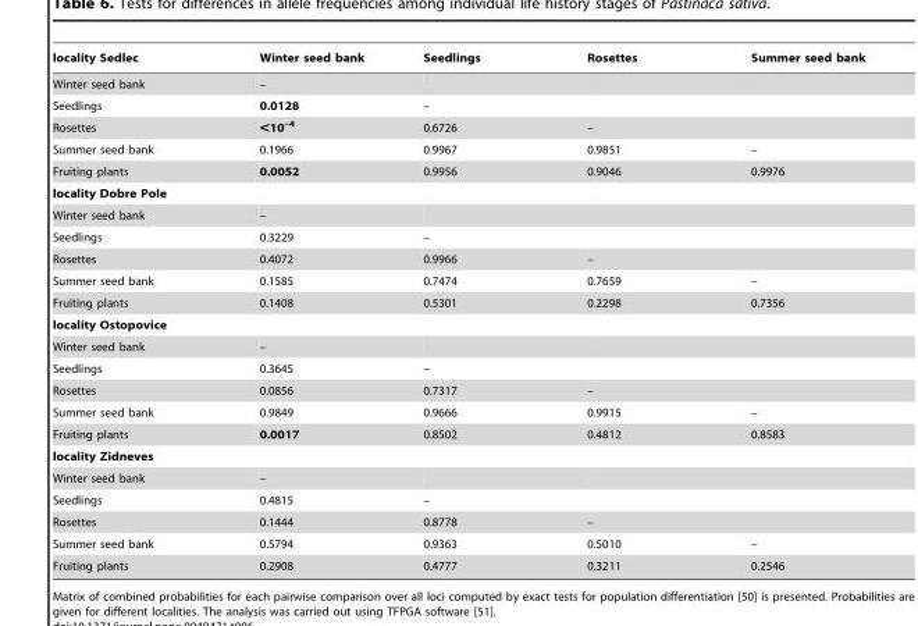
<table><thead><tr><td>locality Sedlec</td><td>Winter seed bank</td><td>Seedlings</td><td>Rosettes</td><td>Summer seed bank</td></tr></thead><tbody><tr><td>Winter seed bank</td><td>–</td><td></td><td></td><td></td></tr><tr><td>Seedlings</td><td>0.0128</td><td>–</td><td></td><td></td></tr><tr><td>Rosettes</td><td>&lt;10<sup>–4</sup></td><td>0.6726</td><td>–</td><td></td></tr><tr><td>Summer seed bank</td><td>0.1966</td><td>0.9967</td><td>0.9851</td><td>–</td></tr><tr><td>Fruiting plants</td><td>0.0052</td><td>0.9956</td><td>0.9046</td><td>0.9976</td></tr><tr><td colspan="5">locality Dobre Pole</td></tr><tr><td>Winter seed bank</td><td>–</td><td></td><td></td><td></td></tr><tr><td>Seedlings</td><td>0.3229</td><td>–</td><td></td><td></td></tr><tr><td>Rosettes</td><td>0.4072</td><td>0.9966</td><td>–</td><td></td></tr><tr><td>Summer seed bank</td><td>0.1585</td><td>0.7474</td><td>0.7659</td><td>–</td></tr><tr><td>Fruiting plants</td><td>0.1408</td><td>0.5301</td><td>0.2298</td><td>0.7356</td></tr><tr><td colspan="5">locality Ostopovice</td></tr><tr><td>Winter seed bank</td><td>–</td><td></td><td></td><td></td></tr><tr><td>Seedlings</td><td>0.3645</td><td>–</td><td></td><td></td></tr><tr><td>Rosettes</td><td>0.0856</td><td>0.7317</td><td>–</td><td></td></tr><tr><td>Summer seed bank</td><td>0.9849</td><td>0.9666</td><td>0.9915</td><td>–</td></tr><tr><td>Fruiting plants</td><td>0.0017</td><td>0.8502</td><td>0.4812</td><td>0.8583</td></tr><tr><td colspan="5">locality Zidneves</td></tr><tr><td>Winter seed bank</td><td>–</td><td></td><td></td><td></td></tr><tr><td>Seedlings</td><td>0.4815</td><td>–</td><td></td><td></td></tr><tr><td>Rosettes</td><td>0.1444</td><td>0.8778</td><td>–</td><td></td></tr><tr><td>Summer seed bank</td><td>0.5794</td><td>0.9363</td><td>0.5010</td><td>–</td></tr><tr><td>Fruiting plants</td><td>0.2908</td><td>0.4777</td><td>0.3211</td><td>0.2546</td></tr></tbody></table>